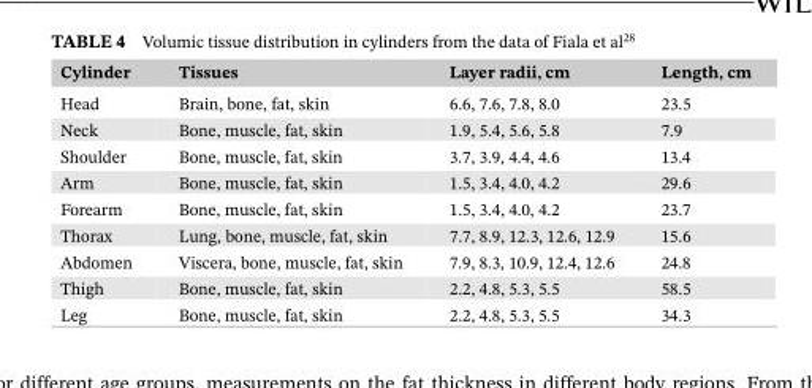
<table><thead><tr><td>Cylinder</td><td>Tissues</td><td>Layer radii, cm</td><td>Length, cm</td></tr></thead><tbody><tr><td>Head</td><td>Brain, bone, fat, skin</td><td>6.6, 7.6, 7.8, 8.0</td><td>23.5</td></tr><tr><td>Neck</td><td>Bone, muscle, fat, skin</td><td>1.9, 5.4, 5.6, 5.8</td><td>7.9</td></tr><tr><td>Shoulder</td><td>Bone, muscle, fat, skin</td><td>3.7, 3.9, 4.4, 4.6</td><td>13.4</td></tr><tr><td>Arm</td><td>Bone, muscle, fat, skin</td><td>1.5, 3.4, 4.0, 4.2</td><td>29.6</td></tr><tr><td>Forearm</td><td>Bone, muscle, fat, skin</td><td>1.5, 3.4, 4.0, 4.2</td><td>23.7</td></tr><tr><td>Thorax</td><td>Lung, bone, muscle, fat, skin</td><td>7.7, 8.9, 12.3, 12.6, 12.9</td><td>15.6</td></tr><tr><td>Abdomen</td><td>Viscera, bone, muscle, fat, skin</td><td>7.9, 8.3, 10.9, 12.4, 12.6</td><td>24.8</td></tr><tr><td>Thigh</td><td>Bone, muscle, fat, skin</td><td>2.2, 4.8, 5.3, 5.5</td><td>58.5</td></tr><tr><td>Leg</td><td>Bone, muscle, fat, skin</td><td>2.2, 4.8, 5.3, 5.5</td><td>34.3</td></tr></tbody></table>